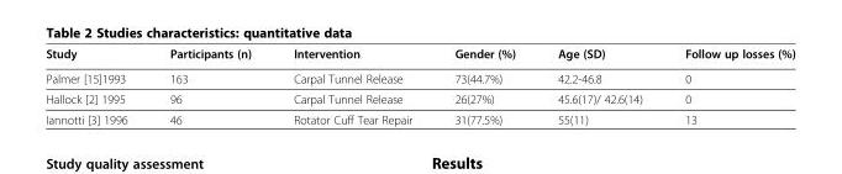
<table><thead><tr><td>Study</td><td>Participants (n)</td><td>Intervention</td><td>Gender (%)</td><td>Age (SD)</td><td>Follow up losses (%)</td></tr></thead><tbody><tr><td>Palmer [15]1993</td><td>163</td><td>Carpal Tunnel Release</td><td>73(44.7%)</td><td>42.2-46.8</td><td>0</td></tr><tr><td>Hallock [2] 1995</td><td>96</td><td>Carpal Tunnel Release</td><td>26(27%)</td><td>45.6(17)/ 42.6(14)</td><td>0</td></tr><tr><td>Iannotti [3] 1996</td><td>46</td><td>Rotator Cuff Tear Repair</td><td>31(77.5%)</td><td>55(11)</td><td>13</td></tr></tbody></table>